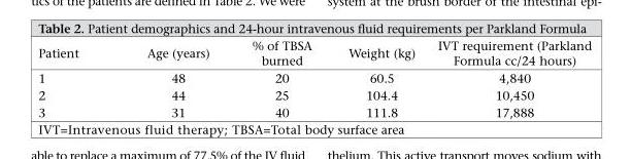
<table><thead><tr><td>Patient</td><td>Age (years)</td><td>% of TBSA burned</td><td>Weight (kg)</td><td>IVT requirement (Parkland Formula cc/24 hours)</td></tr></thead><tbody><tr><td>1</td><td>48</td><td>20</td><td>60.5</td><td>4,840</td></tr><tr><td>2</td><td>44</td><td>25</td><td>104.4</td><td>10,450</td></tr><tr><td>3</td><td>31</td><td>40</td><td>111.8</td><td>17,888</td></tr></tbody></table>